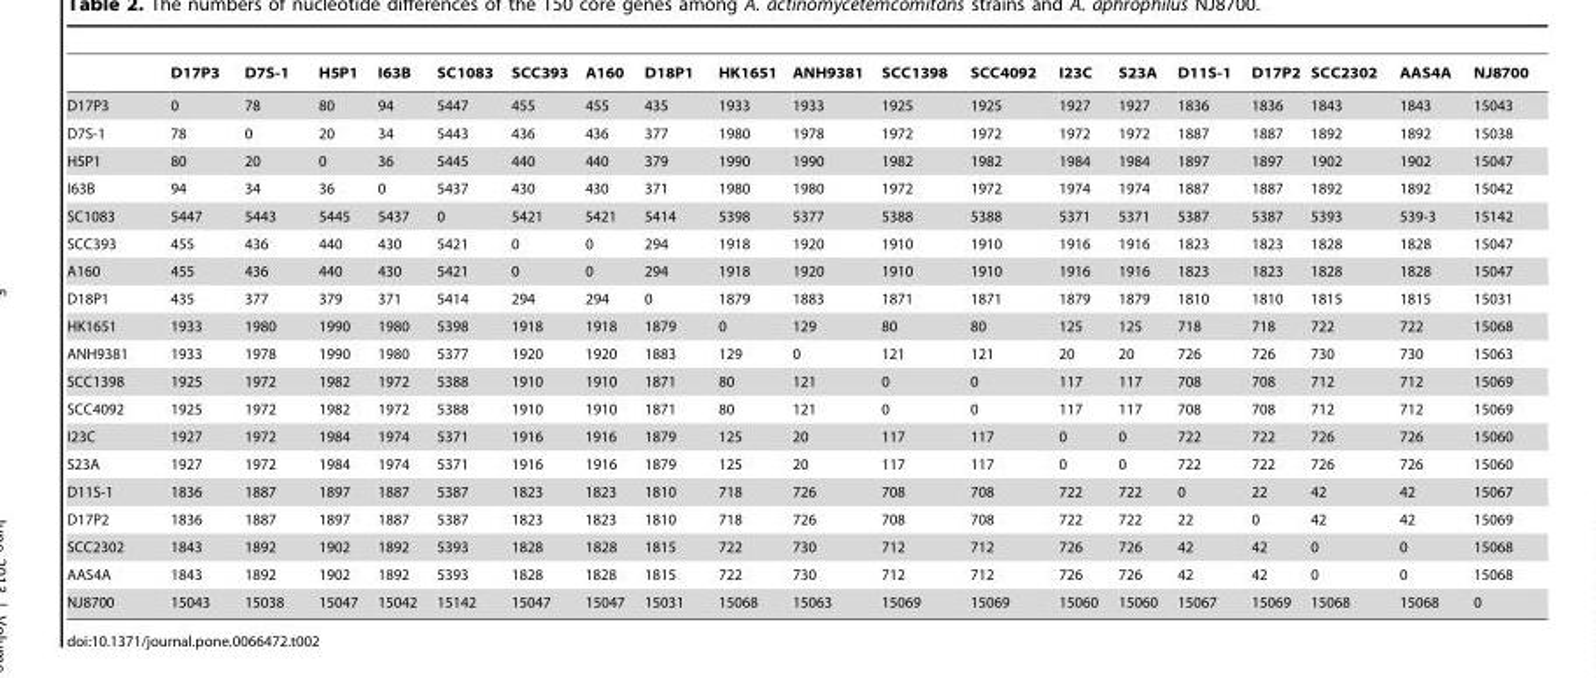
<table><thead><tr><td></td><td>D17P3</td><td>D7S-1</td><td>H5P1</td><td>I63B</td><td>SC1083</td><td>SCC393</td><td>A160</td><td>D18P1</td><td>HK1651</td><td>ANH9381</td><td>SCC1398</td><td>SCC4092</td><td>I23C</td><td>S23A</td><td>D11S-1</td><td>D17P2</td><td>SCC2302</td><td>AAS4A</td><td>NJ8700</td></tr></thead><tbody><tr><td>D17P3</td><td>0</td><td>78</td><td>80</td><td>94</td><td>5447</td><td>455</td><td>455</td><td>435</td><td>1933</td><td>1933</td><td>1925</td><td>1925</td><td>1927</td><td>1927</td><td>1836</td><td>1836</td><td>1843</td><td>1843</td><td>15043</td></tr><tr><td>D7S-1</td><td>78</td><td>0</td><td>20</td><td>34</td><td>5443</td><td>436</td><td>436</td><td>377</td><td>1980</td><td>1978</td><td>1972</td><td>1972</td><td>1972</td><td>1972</td><td>1887</td><td>1887</td><td>1892</td><td>1892</td><td>15038</td></tr><tr><td>H5P1</td><td>80</td><td>20</td><td>0</td><td>36</td><td>5445</td><td>440</td><td>440</td><td>379</td><td>1990</td><td>1990</td><td>1982</td><td>1982</td><td>1984</td><td>1984</td><td>1897</td><td>1897</td><td>1902</td><td>1902</td><td>15047</td></tr><tr><td>I63B</td><td>94</td><td>34</td><td>36</td><td>0</td><td>5437</td><td>430</td><td>430</td><td>371</td><td>1980</td><td>1980</td><td>1972</td><td>1972</td><td>1974</td><td>1974</td><td>1887</td><td>1887</td><td>1892</td><td>1892</td><td>15042</td></tr><tr><td>SC1083</td><td>5447</td><td>5443</td><td>5445</td><td>5437</td><td>0</td><td>5421</td><td>5421</td><td>5414</td><td>5398</td><td>5377</td><td>5388</td><td>5388</td><td>5371</td><td>5371</td><td>5387</td><td>5387</td><td>5393</td><td>539-3</td><td>15142</td></tr><tr><td>SCC393</td><td>455</td><td>436</td><td>440</td><td>430</td><td>5421</td><td>0</td><td>0</td><td>294</td><td>1918</td><td>1920</td><td>1910</td><td>1910</td><td>1916</td><td>1916</td><td>1823</td><td>1823</td><td>1828</td><td>1828</td><td>15047</td></tr><tr><td>A160</td><td>455</td><td>436</td><td>440</td><td>430</td><td>5421</td><td>0</td><td>0</td><td>294</td><td>1918</td><td>1920</td><td>1910</td><td>1910</td><td>1916</td><td>1916</td><td>1823</td><td>1823</td><td>1828</td><td>1828</td><td>15047</td></tr><tr><td>D18P1</td><td>435</td><td>377</td><td>379</td><td>371</td><td>5414</td><td>294</td><td>294</td><td>0</td><td>1879</td><td>1883</td><td>1871</td><td>1871</td><td>1879</td><td>1879</td><td>1810</td><td>1810</td><td>1815</td><td>1815</td><td>15031</td></tr><tr><td>HK1651</td><td>1933</td><td>1980</td><td>1990</td><td>1980</td><td>5398</td><td>1918</td><td>1918</td><td>1879</td><td>0</td><td>129</td><td>80</td><td>80</td><td>125</td><td>125</td><td>718</td><td>718</td><td>722</td><td>722</td><td>15068</td></tr><tr><td>ANH9381</td><td>1933</td><td>1978</td><td>1990</td><td>1980</td><td>5377</td><td>1920</td><td>1920</td><td>1883</td><td>129</td><td>0</td><td>121</td><td>121</td><td>20</td><td>20</td><td>726</td><td>726</td><td>730</td><td>730</td><td>15063</td></tr><tr><td>SCC1398</td><td>1925</td><td>1972</td><td>1982</td><td>1972</td><td>5388</td><td>1910</td><td>1910</td><td>1871</td><td>80</td><td>121</td><td>0</td><td>0</td><td>117</td><td>117</td><td>708</td><td>708</td><td>712</td><td>712</td><td>15069</td></tr><tr><td>SCC4092</td><td>1925</td><td>1972</td><td>1982</td><td>1972</td><td>5388</td><td>1910</td><td>1910</td><td>1871</td><td>80</td><td>121</td><td>0</td><td>0</td><td>117</td><td>117</td><td>708</td><td>708</td><td>712</td><td>712</td><td>15069</td></tr><tr><td>I23C</td><td>1927</td><td>1972</td><td>1984</td><td>1974</td><td>5371</td><td>1916</td><td>1916</td><td>1879</td><td>125</td><td>20</td><td>117</td><td>117</td><td>0</td><td>0</td><td>722</td><td>722</td><td>726</td><td>726</td><td>15060</td></tr><tr><td>S23A</td><td>1927</td><td>1972</td><td>1984</td><td>1974</td><td>5371</td><td>1916</td><td>1916</td><td>1879</td><td>125</td><td>20</td><td>117</td><td>117</td><td>0</td><td>0</td><td>722</td><td>722</td><td>726</td><td>726</td><td>15060</td></tr><tr><td>D11S-1</td><td>1836</td><td>1887</td><td>1897</td><td>1887</td><td>5387</td><td>1823</td><td>1823</td><td>1810</td><td>718</td><td>726</td><td>708</td><td>708</td><td>722</td><td>722</td><td>0</td><td>22</td><td>42</td><td>42</td><td>15067</td></tr><tr><td>D17P2</td><td>1836</td><td>1887</td><td>1897</td><td>1887</td><td>5387</td><td>1823</td><td>1823</td><td>1810</td><td>718</td><td>726</td><td>708</td><td>708</td><td>722</td><td>722</td><td>22</td><td>0</td><td>42</td><td>42</td><td>15069</td></tr><tr><td>SCC2302</td><td>1843</td><td>1892</td><td>1902</td><td>1892</td><td>5393</td><td>1828</td><td>1828</td><td>1815</td><td>722</td><td>730</td><td>712</td><td>712</td><td>726</td><td>726</td><td>42</td><td>42</td><td>0</td><td>0</td><td>15068</td></tr><tr><td>AAS4A</td><td>1843</td><td>1892</td><td>1902</td><td>1892</td><td>5393</td><td>1828</td><td>1828</td><td>1815</td><td>722</td><td>730</td><td>712</td><td>712</td><td>726</td><td>726</td><td>42</td><td>42</td><td>0</td><td>0</td><td>15068</td></tr><tr><td>NJ8700</td><td>15043</td><td>15038</td><td>15047</td><td>15042</td><td>15142</td><td>15047</td><td>15047</td><td>15031</td><td>15068</td><td>15063</td><td>15069</td><td>15069</td><td>15060</td><td>15060</td><td>15067</td><td>15069</td><td>15068</td><td>15068</td><td>0</td></tr></tbody></table>